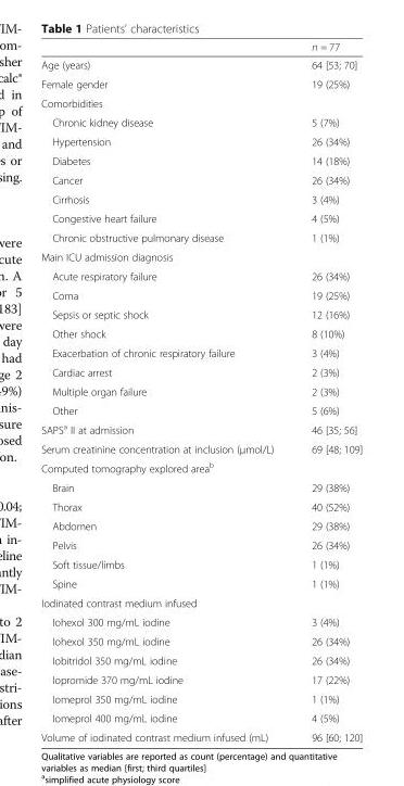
<table><thead><tr><td></td><td>n = 77</td></tr></thead><tbody><tr><td>Age (years)</td><td>64 [53; 70]</td></tr><tr><td>Female gender</td><td>19 (25%)</td></tr><tr><td colspan="2">Comorbidities</td></tr><tr><td>Chronic kidney disease</td><td>5 (7%)</td></tr><tr><td>Hypertension</td><td>26 (34%)</td></tr><tr><td>Diabetes</td><td>14 (18%)</td></tr><tr><td>Cancer</td><td>26 (34%)</td></tr><tr><td>Cirrhosis</td><td>3 (4%)</td></tr><tr><td>Congestive heart failure</td><td>4 (5%)</td></tr><tr><td>Chronic obstructive pulmonary disease</td><td>1 (1%)</td></tr><tr><td colspan="2">Main ICU admission diagnosis</td></tr><tr><td>Acute respiratory failure</td><td>26 (34%)</td></tr><tr><td>Coma</td><td>19 (25%)</td></tr><tr><td>Sepsis or septic shock</td><td>12 (16%)</td></tr><tr><td>Other shock</td><td>8 (10%)</td></tr><tr><td>Exacerbation of chronic respiratory failure</td><td>3 (4%)</td></tr><tr><td>Cardiac arrest</td><td>2 (3%)</td></tr><tr><td>Multiple organ failure</td><td>2 (3%)</td></tr><tr><td>Other</td><td>5 (6%)</td></tr><tr><td>SAPS<sup>a</sup> II at admission</td><td>46 [35; 56]</td></tr><tr><td>Serum creatinine concentration at inclusion (μmol/L)</td><td>69 [48; 109]</td></tr><tr><td colspan="2">Computed tomography explored area<sup>b</sup></td></tr><tr><td>Brain</td><td>29 (38%)</td></tr><tr><td>Thorax</td><td>40 (52%)</td></tr><tr><td>Abdomen</td><td>29 (38%)</td></tr><tr><td>Pelvis</td><td>26 (34%)</td></tr><tr><td>Soft tissue/limbs</td><td>1 (1%)</td></tr><tr><td>Spine</td><td>1 (1%)</td></tr><tr><td colspan="2">Iodinated contrast medium infused</td></tr><tr><td>Iohexol 300 mg/mL iodine</td><td>3 (4%)</td></tr><tr><td>Iohexol 350 mg/mL iodine</td><td>26 (34%)</td></tr><tr><td>Iobitridol 350 mg/mL iodine</td><td>26 (34%)</td></tr><tr><td>Iopromide 370 mg/mL iodine</td><td>17 (22%)</td></tr><tr><td>Iomeprol 350 mg/mL iodine</td><td>1 (1%)</td></tr><tr><td>Iomeprol 400 mg/mL iodine</td><td>4 (5%)</td></tr><tr><td>Volume of iodinated contrast medium infused (mL)</td><td>96 [60; 120]</td></tr></tbody></table>